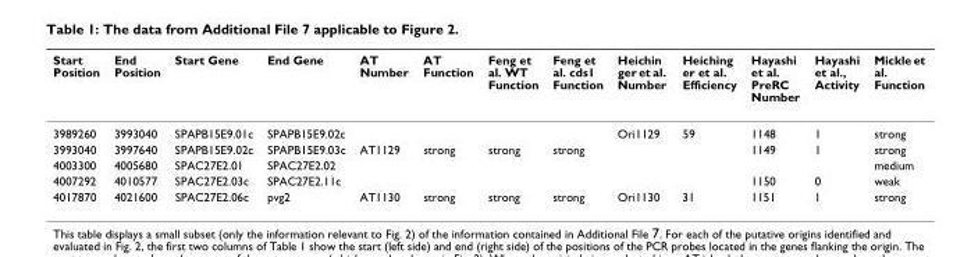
<table><thead><tr><td>Start Position</td><td>End Position</td><td>Start Gene</td><td>End Gene</td><td>AT Number</td><td>AT Function</td><td>Feng et al. WT Function</td><td>Feng et al. cds1 Function</td><td>Heichin ger et al. Number</td><td>Heiching er et al. Efficiency</td><td>Hayashi et al. PreRC Number</td><td>Hayashi et al., Activity</td><td>Mickle et al. Function</td></tr></thead><tbody><tr><td>3989260</td><td>3993040</td><td>SPAPB15E9.01c</td><td>SPAPB15E9.02c</td><td></td><td></td><td></td><td></td><td>Ori1129</td><td>59</td><td>1148</td><td>1</td><td>strong</td></tr><tr><td>3993040</td><td>3997640</td><td>SPAPB15E9.02c</td><td>SPAPB15E9.03c</td><td>AT1129</td><td>strong</td><td>strong</td><td>strong</td><td></td><td></td><td>1149</td><td>1</td><td>strong</td></tr><tr><td>4003300</td><td>4005680</td><td>SPAC27E2.01</td><td>SPAC27E2.02</td><td></td><td></td><td></td><td></td><td></td><td></td><td></td><td></td><td>medium</td></tr><tr><td>4007292</td><td>4010577</td><td>SPAC27E2.03c</td><td>SPAC27E2.11c</td><td></td><td></td><td></td><td></td><td></td><td></td><td>1150</td><td>0</td><td>weak</td></tr><tr><td>4017870</td><td>4021600</td><td>SPAC27E2.06c</td><td>pvg2</td><td>AT1130</td><td>strong</td><td>strong</td><td>strong</td><td>Ori1130</td><td>31</td><td>1151</td><td>1</td><td>strong</td></tr></tbody></table>